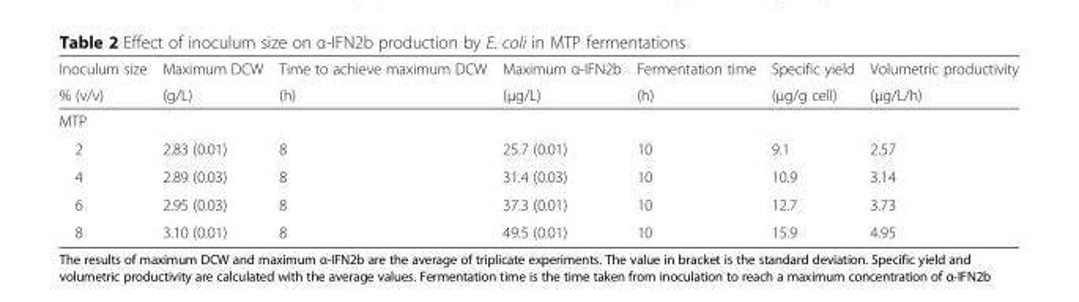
<table><thead><tr><td rowspan="2">Inoculum size % (v/v)</td><td rowspan="2">Maximum DCW (g/L)</td><td rowspan="2">Time to achieve maximum DCW (h)</td><td rowspan="2">Maximum α-IFN2b (μg/L)</td><td rowspan="2">Fermentation time (h)</td><td rowspan="2">Specific yield (μg/g cell)</td><td rowspan="2">Volumetric productivity (μg/L/h)</td></tr><tr></tr></thead><tbody><tr><td colspan="7">MTP</td></tr><tr><td>2</td><td>2.83 (0.01)</td><td>8</td><td>25.7 (0.01)</td><td>10</td><td>9.1</td><td>2.57</td></tr><tr><td>4</td><td>2.89 (0.03)</td><td>8</td><td>31.4 (0.03)</td><td>10</td><td>10.9</td><td>3.14</td></tr><tr><td>6</td><td>2.95 (0.03)</td><td>8</td><td>37.3 (0.01)</td><td>10</td><td>12.7</td><td>3.73</td></tr><tr><td>8</td><td>3.10 (0.01)</td><td>8</td><td>49.5 (0.01)</td><td>10</td><td>15.9</td><td>4.95</td></tr></tbody></table>